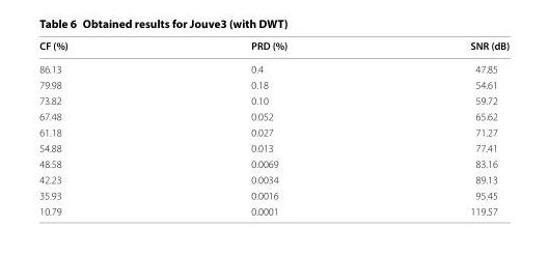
<table><thead><tr><td>CF (%)</td><td>PRD (%)</td><td>SNR (dB)</td></tr></thead><tbody><tr><td>86.13</td><td>0.4</td><td>47.85</td></tr><tr><td>79.98</td><td>0.18</td><td>54.61</td></tr><tr><td>73.82</td><td>0.10</td><td>59.72</td></tr><tr><td>67.48</td><td>0.052</td><td>65.62</td></tr><tr><td>61.18</td><td>0.027</td><td>71.27</td></tr><tr><td>54.88</td><td>0.013</td><td>77.41</td></tr><tr><td>48.58</td><td>0.0069</td><td>83.16</td></tr><tr><td>42.23</td><td>0.0034</td><td>89.13</td></tr><tr><td>35.93</td><td>0.0016</td><td>95.45</td></tr><tr><td>10.79</td><td>0.0001</td><td>119.57</td></tr></tbody></table>